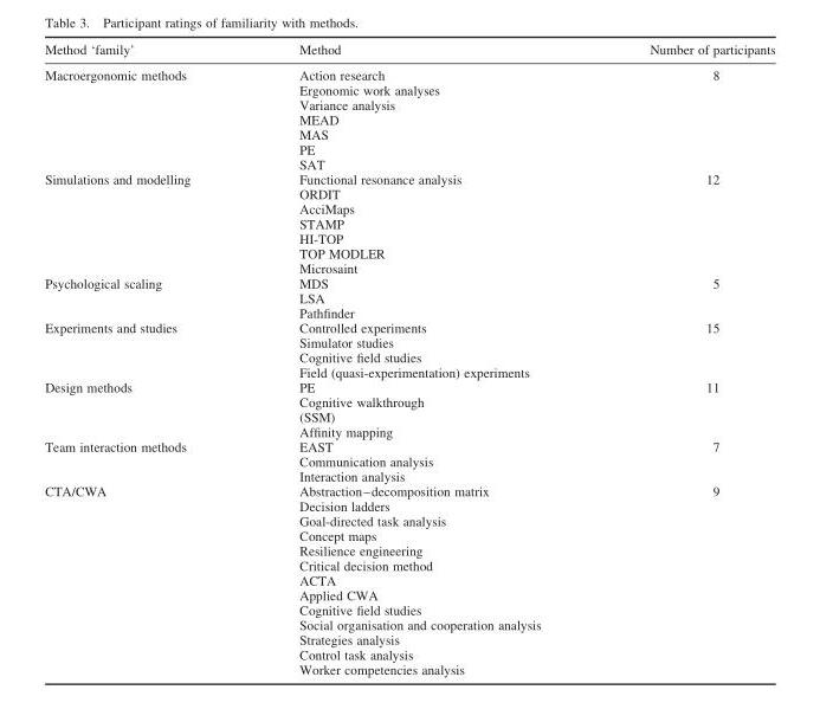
<table><thead><tr><td>Method ‘family’</td><td>Method</td><td>Number of participants</td></tr></thead><tbody><tr><td rowspan="7">Macroergonomic methods</td><td>Action research</td><td>8</td></tr><tr><td>Ergonomic work analyses</td><td></td></tr><tr><td>Variance analysis</td><td></td></tr><tr><td>MEAD</td><td></td></tr><tr><td>MAS</td><td></td></tr><tr><td>PE</td><td></td></tr><tr><td>SAT</td><td></td></tr><tr><td rowspan="7">Simulations and modelling</td><td>Functional resonance analysis</td><td>12</td></tr><tr><td>ORDIT</td><td></td></tr><tr><td>AcciMaps</td><td></td></tr><tr><td>STAMP</td><td></td></tr><tr><td>HI-TOP</td><td></td></tr><tr><td>TOP MODLER</td><td></td></tr><tr><td>Microsaint</td><td></td></tr><tr><td rowspan="3">Psychological scaling</td><td>MDS</td><td>5</td></tr><tr><td>LSA</td><td></td></tr><tr><td>Pathfinder</td><td></td></tr><tr><td rowspan="4">Experiments and studies</td><td>Controlled experiments</td><td>15</td></tr><tr><td>Simulator studies</td><td></td></tr><tr><td>Cognitive field studies</td><td></td></tr><tr><td>Field (quasi-experimentation) experiments</td><td></td></tr><tr><td rowspan="4">Design methods</td><td>PE</td><td>11</td></tr><tr><td>Cognitive walkthrough</td><td></td></tr><tr><td>(SSM)</td><td></td></tr><tr><td>Affinity mapping</td><td></td></tr><tr><td rowspan="3">Team interaction methods</td><td>EAST</td><td>7</td></tr><tr><td>Communication analysis</td><td></td></tr><tr><td>Interaction analysis</td><td></td></tr><tr><td rowspan="13">CTA/CWA</td><td>Abstraction–decomposition matrix</td><td>9</td></tr><tr><td>Decision ladders</td><td></td></tr><tr><td>Goal-directed task analysis</td><td></td></tr><tr><td>Concept maps</td><td></td></tr><tr><td>Resilience engineering</td><td></td></tr><tr><td>Critical decision method</td><td></td></tr><tr><td>ACTA</td><td></td></tr><tr><td>Applied CWA</td><td></td></tr><tr><td>Cognitive field studies</td><td></td></tr><tr><td>Social organisation and cooperation analysis</td><td></td></tr><tr><td>Strategies analysis</td><td></td></tr><tr><td>Control task analysis</td><td></td></tr><tr><td>Worker competencies analysis</td><td></td></tr></tbody></table>